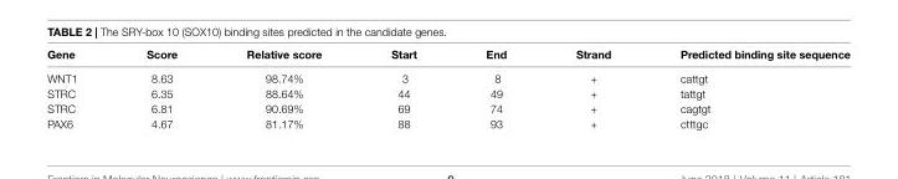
<table><thead><tr><td>Gene</td><td>Score</td><td>Relative score</td><td>Start</td><td>End</td><td>Strand</td><td>Predicted binding site sequence</td></tr></thead><tbody><tr><td>WNT1</td><td>8.63</td><td>98.74%</td><td>3</td><td>8</td><td>+</td><td>cattgt</td></tr><tr><td>STRC</td><td>6.35</td><td>88.64%</td><td>44</td><td>49</td><td>+</td><td>tattgt</td></tr><tr><td>STRC</td><td>6.81</td><td>90.69%</td><td>69</td><td>74</td><td>+</td><td>cagtgt</td></tr><tr><td>PAX6</td><td>4.67</td><td>81.17%</td><td>88</td><td>93</td><td>+</td><td>ctttgc</td></tr></tbody></table>